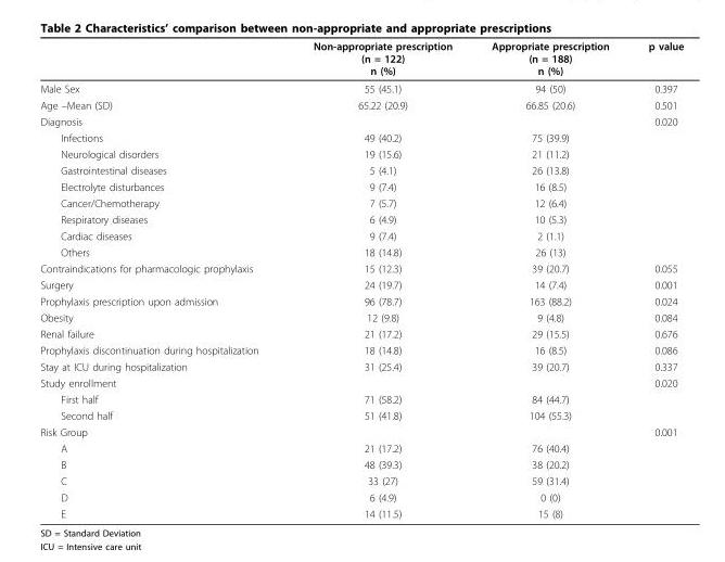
<table><thead><tr><td></td><td>Non-appropriate prescription (n = 122) n (%)</td><td>Appropriate prescription (n = 188) n (%)</td><td>p value</td></tr></thead><tbody><tr><td>Male Sex</td><td>55 (45.1)</td><td>94 (50)</td><td>0.397</td></tr><tr><td>Age –Mean (SD)</td><td>65.22 (20.9)</td><td>66.85 (20.6)</td><td>0.501</td></tr><tr><td>Diagnosis</td><td></td><td></td><td>0.020</td></tr><tr><td>Infections</td><td>49 (40.2)</td><td>75 (39.9)</td><td></td></tr><tr><td>Neurological disorders</td><td>19 (15.6)</td><td>21 (11.2)</td><td></td></tr><tr><td>Gastrointestinal diseases</td><td>5 (4.1)</td><td>26 (13.8)</td><td></td></tr><tr><td>Electrolyte disturbances</td><td>9 (7.4)</td><td>16 (8.5)</td><td></td></tr><tr><td>Cancer/Chemotherapy</td><td>7 (5.7)</td><td>12 (6.4)</td><td></td></tr><tr><td>Respiratory diseases</td><td>6 (4.9)</td><td>10 (5.3)</td><td></td></tr><tr><td>Cardiac diseases</td><td>9 (7.4)</td><td>2 (1.1)</td><td></td></tr><tr><td>Others</td><td>18 (14.8)</td><td>26 (13)</td><td></td></tr><tr><td>Contraindications for pharmacologic prophylaxis</td><td>15 (12.3)</td><td>39 (20.7)</td><td>0.055</td></tr><tr><td>Surgery</td><td>24 (19.7)</td><td>14 (7.4)</td><td>0.001</td></tr><tr><td>Prophylaxis prescription upon admission</td><td>96 (78.7)</td><td>163 (88.2)</td><td>0.024</td></tr><tr><td>Obesity</td><td>12 (9.8)</td><td>9 (4.8)</td><td>0.084</td></tr><tr><td>Renal failure</td><td>21 (17.2)</td><td>29 (15.5)</td><td>0.676</td></tr><tr><td>Prophylaxis discontinuation during hospitalization</td><td>18 (14.8)</td><td>16 (8.5)</td><td>0.086</td></tr><tr><td>Stay at ICU during hospitalization</td><td>31 (25.4)</td><td>39 (20.7)</td><td>0.337</td></tr><tr><td>Study enrollment</td><td></td><td></td><td>0.020</td></tr><tr><td>First half</td><td>71 (58.2)</td><td>84 (44.7)</td><td></td></tr><tr><td>Second half</td><td>51 (41.8)</td><td>104 (55.3)</td><td></td></tr><tr><td>Risk Group</td><td></td><td></td><td>0.001</td></tr><tr><td>A</td><td>21 (17.2)</td><td>76 (40.4)</td><td></td></tr><tr><td>B</td><td>48 (39.3)</td><td>38 (20.2)</td><td></td></tr><tr><td>C</td><td>33 (27)</td><td>59 (31.4)</td><td></td></tr><tr><td>D</td><td>6 (4.9)</td><td>0 (0)</td><td></td></tr><tr><td>E</td><td>14 (11.5)</td><td>15 (8)</td><td></td></tr></tbody></table>